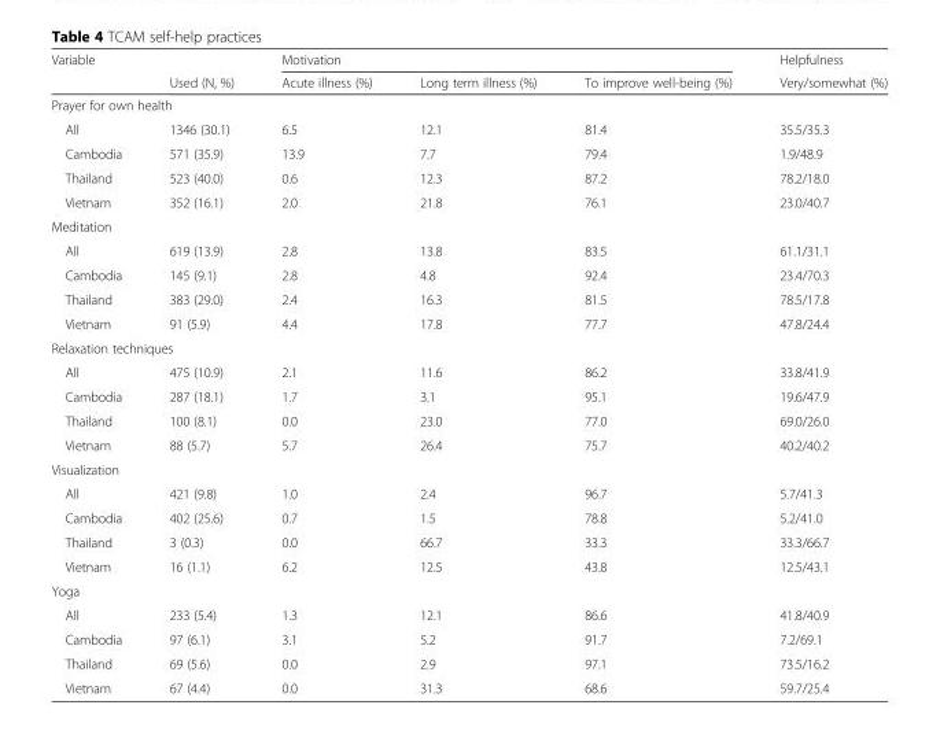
<table><thead><tr><td rowspan="2">Variable</td><td rowspan="2">Used (N, %)</td><td colspan="3">Motivation</td><td rowspan="2">Helpfulness Very/somewhat (%)</td></tr><tr><td>Acute illness (%)</td><td>Long term illness (%)</td><td>To improve well-being (%)</td></tr></thead><tbody><tr><td colspan="6">Prayer for own health</td></tr><tr><td>All</td><td>1346 (30.1)</td><td>6.5</td><td>12.1</td><td>81.4</td><td>35.5/35.3</td></tr><tr><td>Cambodia</td><td>571 (35.9)</td><td>13.9</td><td>7.7</td><td>79.4</td><td>1.9/48.9</td></tr><tr><td>Thailand</td><td>523 (40.0)</td><td>0.6</td><td>12.3</td><td>87.2</td><td>78.2/18.0</td></tr><tr><td>Vietnam</td><td>352 (16.1)</td><td>2.0</td><td>21.8</td><td>76.1</td><td>23.0/40.7</td></tr><tr><td colspan="6">Meditation</td></tr><tr><td>All</td><td>619 (13.9)</td><td>2.8</td><td>13.8</td><td>83.5</td><td>61.1/31.1</td></tr><tr><td>Cambodia</td><td>145 (9.1)</td><td>2.8</td><td>4.8</td><td>92.4</td><td>23.4/70.3</td></tr><tr><td>Thailand</td><td>383 (29.0)</td><td>2.4</td><td>16.3</td><td>81.5</td><td>78.5/17.8</td></tr><tr><td>Vietnam</td><td>91 (5.9)</td><td>4.4</td><td>17.8</td><td>77.7</td><td>47.8/24.4</td></tr><tr><td colspan="6">Relaxation techniques</td></tr><tr><td>All</td><td>475 (10.9)</td><td>2.1</td><td>11.6</td><td>86.2</td><td>33.8/41.9</td></tr><tr><td>Cambodia</td><td>287 (18.1)</td><td>1.7</td><td>3.1</td><td>95.1</td><td>19.6/47.9</td></tr><tr><td>Thailand</td><td>100 (8.1)</td><td>0.0</td><td>23.0</td><td>77.0</td><td>69.0/26.0</td></tr><tr><td>Vietnam</td><td>88 (5.7)</td><td>5.7</td><td>26.4</td><td>75.7</td><td>40.2/40.2</td></tr><tr><td colspan="6">Visualization</td></tr><tr><td>All</td><td>421 (9.8)</td><td>1.0</td><td>2.4</td><td>96.7</td><td>5.7/41.3</td></tr><tr><td>Cambodia</td><td>402 (25.6)</td><td>0.7</td><td>1.5</td><td>78.8</td><td>5.2/41.0</td></tr><tr><td>Thailand</td><td>3 (0.3)</td><td>0.0</td><td>66.7</td><td>33.3</td><td>33.3/66.7</td></tr><tr><td>Vietnam</td><td>16 (1.1)</td><td>6.2</td><td>12.5</td><td>43.8</td><td>12.5/43.1</td></tr><tr><td colspan="6">Yoga</td></tr><tr><td>All</td><td>233 (5.4)</td><td>1.3</td><td>12.1</td><td>86.6</td><td>41.8/40.9</td></tr><tr><td>Cambodia</td><td>97 (6.1)</td><td>3.1</td><td>5.2</td><td>91.7</td><td>7.2/69.1</td></tr><tr><td>Thailand</td><td>69 (5.6)</td><td>0.0</td><td>2.9</td><td>97.1</td><td>73.5/16.2</td></tr><tr><td>Vietnam</td><td>67 (4.4)</td><td>0.0</td><td>31.3</td><td>68.6</td><td>59.7/25.4</td></tr></tbody></table>